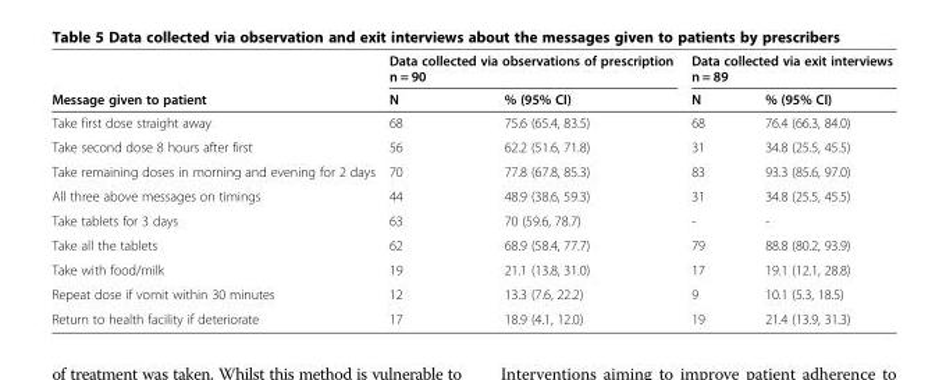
<table><thead><tr><td rowspan="2">Message given to patient</td><td colspan="2">Data collected via observations of prescription n = 90</td><td colspan="2">Data collected via exit interviews n = 89</td></tr><tr><td>N</td><td>% (95% CI)</td><td>N</td><td>% (95% CI)</td></tr></thead><tbody><tr><td>Take first dose straight away</td><td>68</td><td>75.6 (65.4, 83.5)</td><td>68</td><td>76.4 (66.3, 84.0)</td></tr><tr><td>Take second dose 8 hours after first</td><td>56</td><td>62.2 (51.6, 71.8)</td><td>31</td><td>34.8 (25.5, 45.5)</td></tr><tr><td>Take remaining doses in morning and evening for 2 days</td><td>70</td><td>77.8 (67.8, 85.3)</td><td>83</td><td>93.3 (85.6, 97.0)</td></tr><tr><td>All three above messages on timings</td><td>44</td><td>48.9 (38.6, 59.3)</td><td>31</td><td>34.8 (25.5, 45.5)</td></tr><tr><td>Take tablets for 3 days</td><td>63</td><td>70 (59.6, 78.7)</td><td>-</td><td>-</td></tr><tr><td>Take all the tablets</td><td>62</td><td>68.9 (58.4, 77.7)</td><td>79</td><td>88.8 (80.2, 93.9)</td></tr><tr><td>Take with food/milk</td><td>19</td><td>21.1 (13.8, 31.0)</td><td>17</td><td>19.1 (12.1, 28.8)</td></tr><tr><td>Repeat dose if vomit within 30 minutes</td><td>12</td><td>13.3 (7.6, 22.2)</td><td>9</td><td>10.1 (5.3, 18.5)</td></tr><tr><td>Return to health facility if deteriorate</td><td>17</td><td>18.9 (4.1, 12.0)</td><td>19</td><td>21.4 (13.9, 31.3)</td></tr></tbody></table>